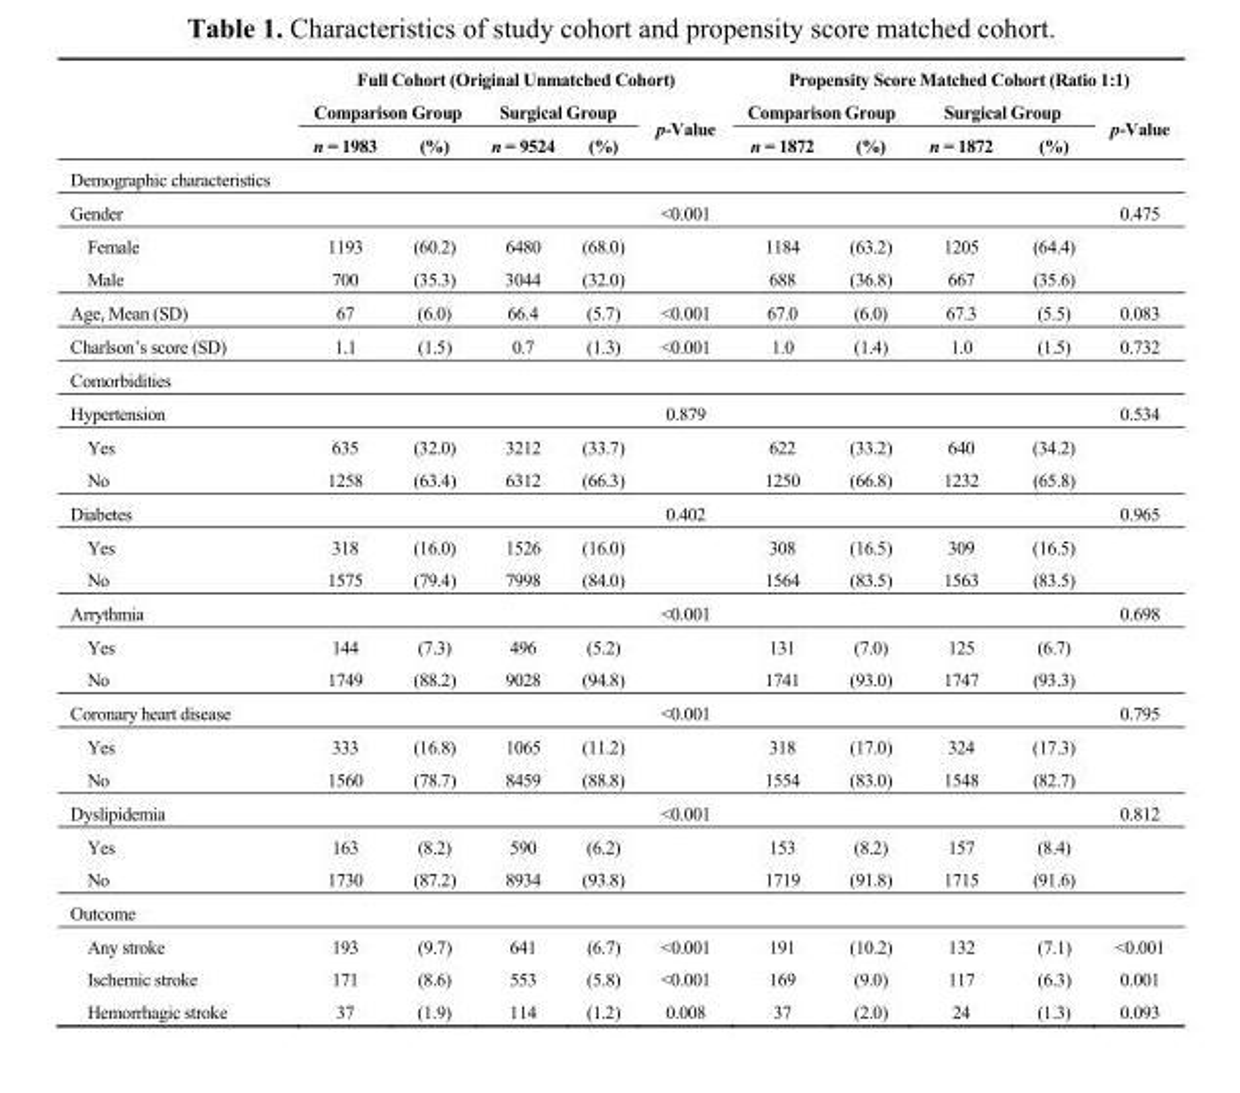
<table><thead><tr><td rowspan="3"></td><td colspan="5">Full Cohort (Original Unmatched Cohort)</td><td colspan="5">Propensity Score Matched Cohort (Ratio 1:1)</td></tr><tr><td colspan="2">Comparison Group</td><td colspan="2">Surgical Group</td><td rowspan="2">p-Value</td><td colspan="2">Comparison Group</td><td colspan="2">Surgical Group</td><td rowspan="2">p-Value</td></tr><tr><td>n = 1983</td><td>(%)</td><td>n = 9524</td><td>(%)</td><td>n = 1872</td><td>(%)</td><td>n = 1872</td><td>(%)</td></tr></thead><tbody><tr><td colspan="11">Demographic characteristics</td></tr><tr><td>Gender</td><td></td><td></td><td></td><td></td><td>&lt;0.001</td><td></td><td></td><td></td><td></td><td>0.475</td></tr><tr><td>Female</td><td>1193</td><td>(60.2)</td><td>6480</td><td>(68.0)</td><td></td><td>1184</td><td>(63.2)</td><td>1205</td><td>(64.4)</td><td></td></tr><tr><td>Male</td><td>700</td><td>(35.3)</td><td>3044</td><td>(32.0)</td><td></td><td>688</td><td>(36.8)</td><td>667</td><td>(35.6)</td><td></td></tr><tr><td>Age, Mean (SD)</td><td>67</td><td>(6.0)</td><td>66.4</td><td>(5.7)</td><td>&lt;0.001</td><td>67.0</td><td>(6.0)</td><td>67.3</td><td>(5.5)</td><td>0.083</td></tr><tr><td>Charlson’s score (SD)</td><td>1.1</td><td>(1.5)</td><td>0.7</td><td>(1.3)</td><td>&lt;0.001</td><td>1.0</td><td>(1.4)</td><td>1.0</td><td>(1.5)</td><td>0.732</td></tr><tr><td colspan="11">Comorbidities</td></tr><tr><td>Hypertension</td><td></td><td></td><td></td><td></td><td>0.879</td><td></td><td></td><td></td><td></td><td>0.534</td></tr><tr><td>Yes</td><td>635</td><td>(32.0)</td><td>3212</td><td>(33.7)</td><td></td><td>622</td><td>(33.2)</td><td>640</td><td>(34.2)</td><td></td></tr><tr><td>No</td><td>1258</td><td>(63.4)</td><td>6312</td><td>(66.3)</td><td></td><td>1250</td><td>(66.8)</td><td>1232</td><td>(65.8)</td><td></td></tr><tr><td>Diabetes</td><td></td><td></td><td></td><td></td><td>0.402</td><td></td><td></td><td></td><td></td><td>0.965</td></tr><tr><td>Yes</td><td>318</td><td>(16.0)</td><td>1526</td><td>(16.0)</td><td></td><td>308</td><td>(16.5)</td><td>309</td><td>(16.5)</td><td></td></tr><tr><td>No</td><td>1575</td><td>(79.4)</td><td>7998</td><td>(84.0)</td><td></td><td>1564</td><td>(83.5)</td><td>1563</td><td>(83.5)</td><td></td></tr><tr><td>Arrythmia</td><td></td><td></td><td></td><td></td><td>&lt;0.001</td><td></td><td></td><td></td><td></td><td>0.698</td></tr><tr><td>Yes</td><td>144</td><td>(7.3)</td><td>496</td><td>(5.2)</td><td></td><td>131</td><td>(7.0)</td><td>125</td><td>(6.7)</td><td></td></tr><tr><td>No</td><td>1749</td><td>(88.2)</td><td>9028</td><td>(94.8)</td><td></td><td>1741</td><td>(93.0)</td><td>1747</td><td>(93.3)</td><td></td></tr><tr><td>Coronary heart disease</td><td></td><td></td><td></td><td></td><td>&lt;0.001</td><td></td><td></td><td></td><td></td><td>0.795</td></tr><tr><td>Yes</td><td>333</td><td>(16.8)</td><td>1065</td><td>(11.2)</td><td></td><td>318</td><td>(17.0)</td><td>324</td><td>(17.3)</td><td></td></tr><tr><td>No</td><td>1560</td><td>(78.7)</td><td>8459</td><td>(88.8)</td><td></td><td>1554</td><td>(83.0)</td><td>1548</td><td>(82.7)</td><td></td></tr><tr><td>Dyslipidemia</td><td></td><td></td><td></td><td></td><td>&lt;0.001</td><td></td><td></td><td></td><td></td><td>0.812</td></tr><tr><td>Yes</td><td>163</td><td>(8.2)</td><td>590</td><td>(6.2)</td><td></td><td>153</td><td>(8.2)</td><td>157</td><td>(8.4)</td><td></td></tr><tr><td>No</td><td>1730</td><td>(87.2)</td><td>8934</td><td>(93.8)</td><td></td><td>1719</td><td>(91.8)</td><td>1715</td><td>(91.6)</td><td></td></tr><tr><td colspan="11">Outcome</td></tr><tr><td>Any stroke</td><td>193</td><td>(9.7)</td><td>641</td><td>(6.7)</td><td>&lt;0.001</td><td>191</td><td>(10.2)</td><td>132</td><td>(7.1)</td><td>&lt;0.001</td></tr><tr><td>Ischemic stroke</td><td>171</td><td>(8.6)</td><td>553</td><td>(5.8)</td><td>&lt;0.001</td><td>169</td><td>(9.0)</td><td>117</td><td>(6.3)</td><td>0.001</td></tr><tr><td>Hemorrhagic stroke</td><td>37</td><td>(1.9)</td><td>114</td><td>(1.2)</td><td>0.008</td><td>37</td><td>(2.0)</td><td>24</td><td>(1.3)</td><td>0.093</td></tr></tbody></table>